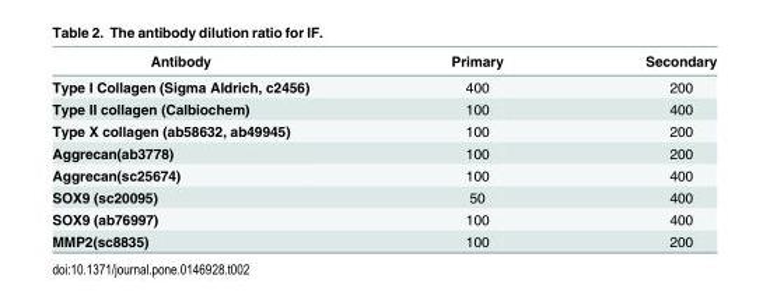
<table><thead><tr><td>Antibody</td><td>Primary</td><td>Secondary</td></tr></thead><tbody><tr><td>Type I Collagen (Sigma Aldrich, c2456)</td><td>400</td><td>200</td></tr><tr><td>Type II collagen (Calbiochem)</td><td>100</td><td>400</td></tr><tr><td>Type X collagen (ab58632, ab49945)</td><td>100</td><td>200</td></tr><tr><td>Aggrecan(ab3778)</td><td>100</td><td>200</td></tr><tr><td>Aggrecan(sc25674)</td><td>100</td><td>400</td></tr><tr><td>SOX9 (sc20095)</td><td>50</td><td>400</td></tr><tr><td>SOX9 (ab76997)</td><td>100</td><td>400</td></tr><tr><td>MMP2(sc8835)</td><td>100</td><td>200</td></tr></tbody></table>